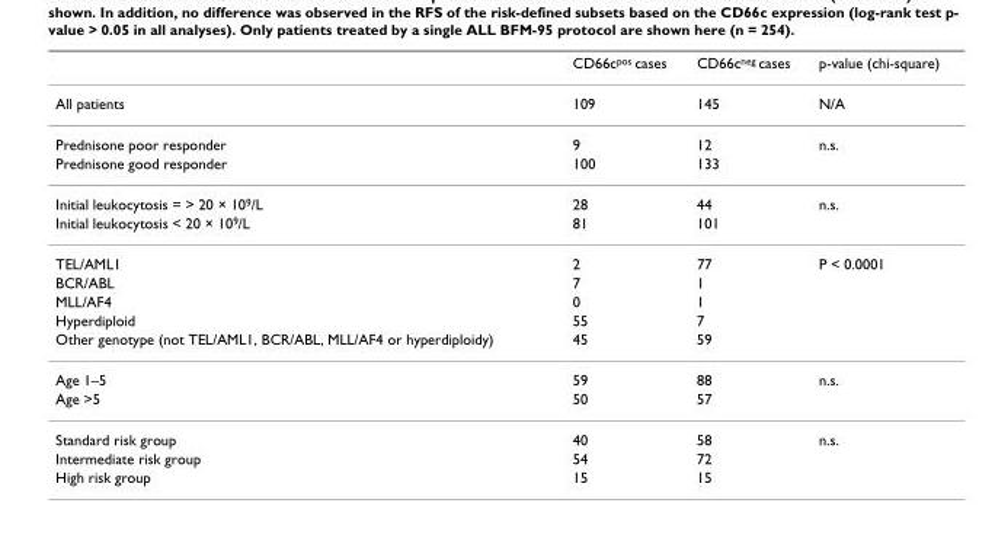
<table><thead><tr><td></td><td>CD66cpos cases</td><td>CD66cneg cases</td><td>p-value (chi-square)</td></tr></thead><tbody><tr><td>All patients</td><td>109</td><td>145</td><td>N/A</td></tr><tr><td>Prednisone poor responder</td><td>9</td><td>12</td><td>n.s.</td></tr><tr><td>Prednisone good responder</td><td>100</td><td>133</td><td></td></tr><tr><td>Initial leukocytosis = &gt; 20 × 109/L</td><td>28</td><td>44</td><td>n.s.</td></tr><tr><td>Initial leukocytosis &lt; 20 × 109/L</td><td>81</td><td>101</td><td></td></tr><tr><td>TEL/AML1</td><td>2</td><td>77</td><td>P &lt; 0.0001</td></tr><tr><td>BCR/ABL</td><td>7</td><td>1</td><td></td></tr><tr><td>MLL/AF4</td><td>0</td><td>1</td><td></td></tr><tr><td>Hyperdiploid</td><td>55</td><td>7</td><td></td></tr><tr><td>Other genotype (not TEL/AML1, BCR/ABL, MLL/AF4 or hyperdiploidy)</td><td>45</td><td>59</td><td></td></tr><tr><td>Age 1–5</td><td>59</td><td>88</td><td>n.s.</td></tr><tr><td>Age &gt;5</td><td>50</td><td>57</td><td></td></tr><tr><td>Standard risk group</td><td>40</td><td>58</td><td>n.s.</td></tr><tr><td>Intermediate risk group</td><td>54</td><td>72</td><td></td></tr><tr><td>High risk group</td><td>15</td><td>15</td><td></td></tr></tbody></table>